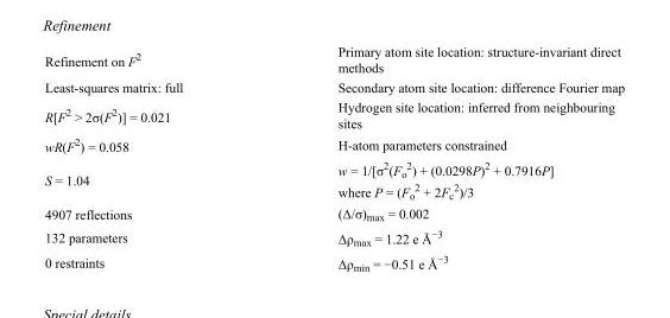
<table><tbody><tr><td>Refinement on F<sup>2</sup></td><td>Primary atom site location: structure-invariant direct methods</td></tr><tr><td>Least-squares matrix: full</td><td>Secondary atom site location: difference Fourier map</td></tr><tr><td>R[F<sup>2</sup> &gt; 2σ(F<sup>2</sup>)] = 0.021</td><td>Hydrogen site location: inferred from neighbouring sites</td></tr><tr><td>wR(F<sup>2</sup>) = 0.058</td><td>H-atom parameters constrained</td></tr><tr><td>S = 1.04</td><td>w = 1/[σ<sup>2</sup>(F<sub>o</sub> <sup>2</sup>) + (0.0298P)<sup>2</sup> + 0.7916P] where P = (F<sub>o</sub> <sup>2</sup> + 2F<sub>c</sub> <sup>2</sup>)/3</td></tr><tr><td>4907 reflections</td><td>(Δ/σ)<sub>max</sub> = 0.002</td></tr><tr><td>132 parameters</td><td>Δρ<sub>max</sub> = 1.22 e Å<sup>−3</sup></td></tr><tr><td>0 restraints</td><td>Δρ<sub>min</sub> = −0.51 e Å<sup>−3</sup></td></tr></tbody></table>